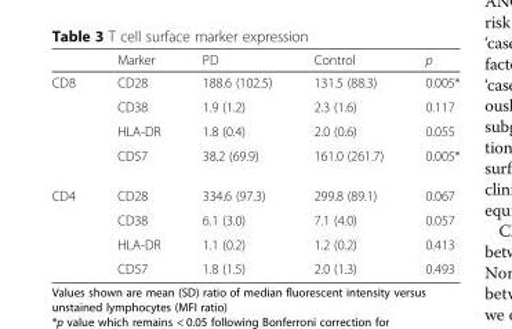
<table><thead><tr><td></td><td>Marker</td><td>PD</td><td>Control</td><td>p</td></tr></thead><tbody><tr><td rowspan="4">CD8</td><td>CD28</td><td>188.6 (102.5)</td><td>131.5 (88.3)</td><td>0.005*</td></tr><tr><td>CD38</td><td>1.9 (1.2)</td><td>2.3 (1.6)</td><td>0.117</td></tr><tr><td>HLA-DR</td><td>1.8 (0.4)</td><td>2.0 (0.6)</td><td>0.055</td></tr><tr><td>CD57</td><td>38.2 (69.9)</td><td>161.0 (261.7)</td><td>0.005*</td></tr><tr><td rowspan="4">CD4</td><td>CD28</td><td>334.6 (97.3)</td><td>299.8 (89.1)</td><td>0.067</td></tr><tr><td>CD38</td><td>6.1 (3.0)</td><td>7.1 (4.0)</td><td>0.057</td></tr><tr><td>HLA-DR</td><td>1.1 (0.2)</td><td>1.2 (0.2)</td><td>0.413</td></tr><tr><td>CD57</td><td>1.8 (1.5)</td><td>2.0 (1.3)</td><td>0.493</td></tr></tbody></table>